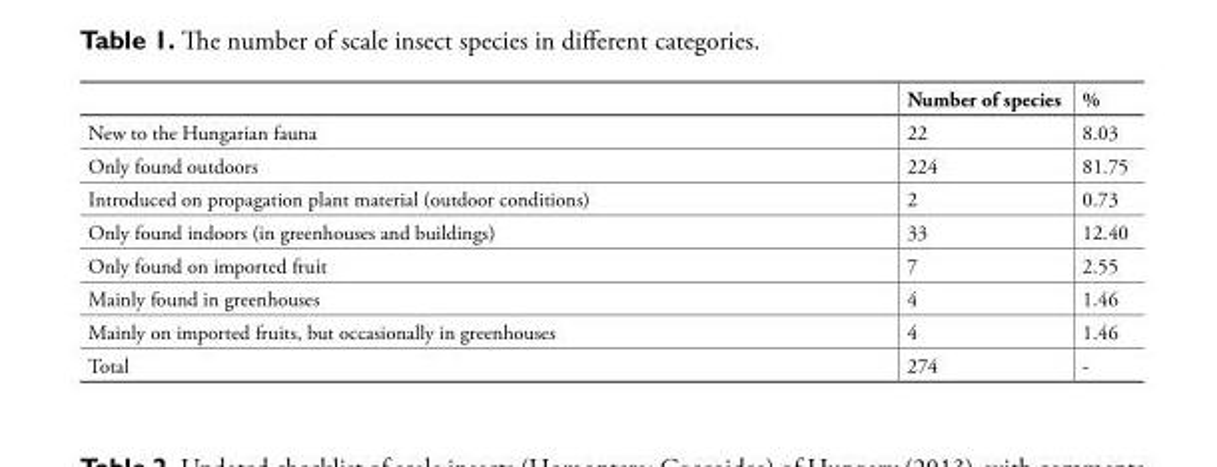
<table><thead><tr><td></td><td>Number of species</td><td>%</td></tr></thead><tbody><tr><td>New to the Hungarian fauna</td><td>22</td><td>8.03</td></tr><tr><td>Only found outdoors</td><td>224</td><td>81.75</td></tr><tr><td>Introduced on propagation plant material (outdoor conditions)</td><td>2</td><td>0.73</td></tr><tr><td>Only found indoors (in greenhouses and buildings)</td><td>33</td><td>12.40</td></tr><tr><td>Only found on imported fruit</td><td>7</td><td>2.55</td></tr><tr><td>Mainly found in greenhouses</td><td>4</td><td>1.46</td></tr><tr><td>Mainly on imported fruits, but occasionally in greenhouses</td><td>4</td><td>1.46</td></tr><tr><td>Total</td><td>274</td><td>-</td></tr></tbody></table>